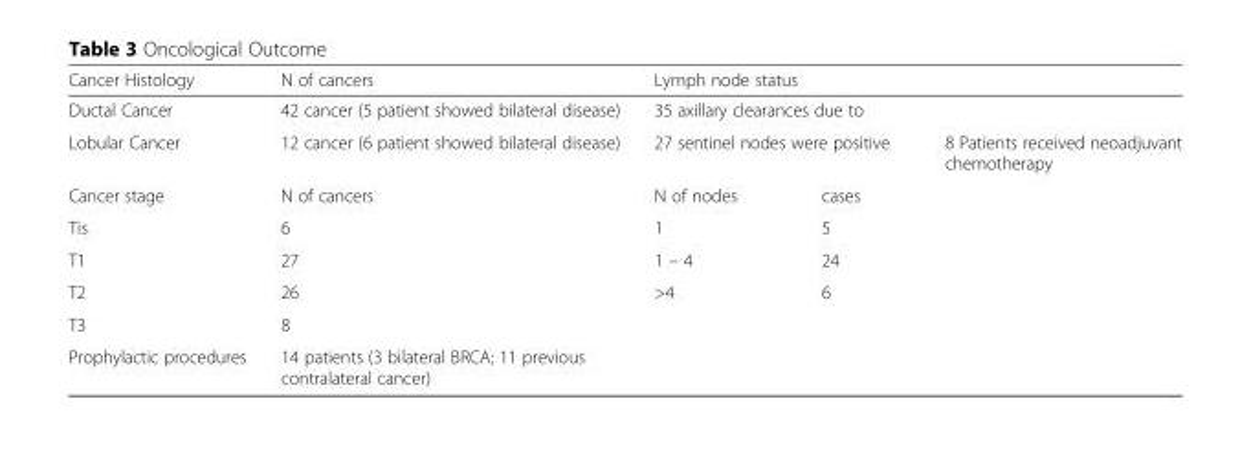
<table><thead><tr><td rowspan="4">Cancer Histology Ductal Cancer Lobular Cancer Cancer stage</td><td rowspan="4">N of cancers 42 cancer (5 patient showed bilateral disease) 12 cancer (6 patient showed bilateral disease) N of cancers</td><td rowspan="2" colspan="3">Lymph node status 35 axillary clearances due to</td></tr><tr></tr><tr><td colspan="2">27 sentinel nodes were positive</td><td rowspan="2">8 Patients received neoadjuvant chemotherapy</td></tr><tr><td>N of nodes</td><td>cases</td></tr></thead><tbody><tr><td>Tis</td><td>6</td><td>1</td><td>5</td><td></td></tr><tr><td>T1</td><td>27</td><td>1 – 4</td><td>24</td><td></td></tr><tr><td>T2</td><td>26</td><td>&gt;4</td><td>6</td><td></td></tr><tr><td>T3</td><td>8</td><td colspan="2"></td><td></td></tr><tr><td>Prophylactic procedures</td><td>14 patients (3 bilateral BRCA; 11 previous contralateral cancer)</td><td colspan="2"></td><td></td></tr></tbody></table>